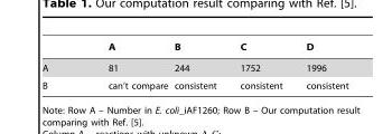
<table><thead><tr><td></td><td>A</td><td>B</td><td>C</td><td>D</td></tr></thead><tbody><tr><td>A</td><td>81</td><td>244</td><td>1752</td><td>1996</td></tr><tr><td>B</td><td>can’t compare</td><td>consistent</td><td>consistent</td><td>consistent</td></tr></tbody></table>